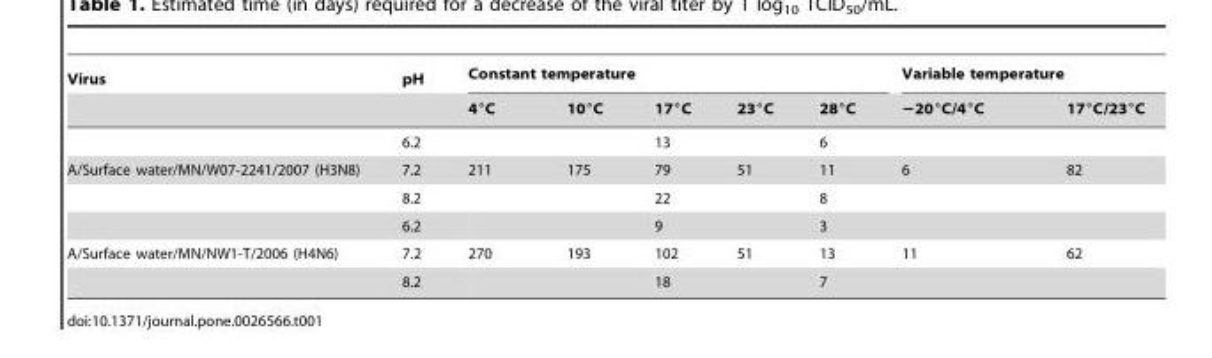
<table><thead><tr><td rowspan="2">Virus</td><td rowspan="2">pH</td><td colspan="5">Constant temperature</td><td colspan="2">Variable temperature</td></tr><tr><td>4°C</td><td>10°C</td><td>17°C</td><td>23°C</td><td>28°C</td><td>−20°C/4°C</td><td>17°C/23°C</td></tr></thead><tbody><tr><td></td><td>6.2</td><td></td><td></td><td>13</td><td></td><td>6</td><td></td><td></td></tr><tr><td rowspan="3">A/Surface water/MN/W07-2241/2007 (H3N8)</td><td>7.2</td><td>211</td><td>175</td><td>79</td><td>51</td><td>11</td><td>6</td><td>82</td></tr><tr><td>8.2</td><td></td><td></td><td>22</td><td></td><td>8</td><td></td><td></td></tr><tr><td>6.2</td><td></td><td></td><td>9</td><td></td><td>3</td><td></td><td></td></tr><tr><td rowspan="2">A/Surface water/MN/NW1-T/2006 (H4N6)</td><td>7.2</td><td>270</td><td>193</td><td>102</td><td>51</td><td>13</td><td>11</td><td>62</td></tr><tr><td>8.2</td><td></td><td></td><td>18</td><td></td><td>7</td><td></td><td></td></tr></tbody></table>